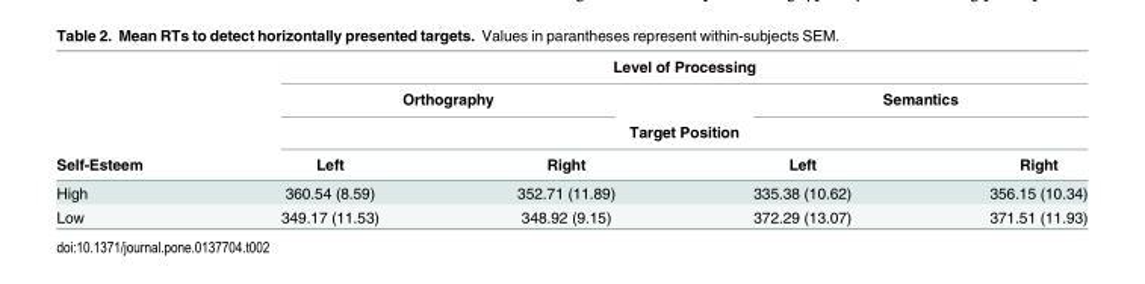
<table><thead><tr><td rowspan="4">Self-Esteem</td><td colspan="4">Level of Processing</td></tr><tr><td colspan="2">Orthography</td><td colspan="2">Semantics</td></tr><tr><td colspan="4">Target Position</td></tr><tr><td>Left</td><td>Right</td><td>Left</td><td>Right</td></tr></thead><tbody><tr><td>High</td><td>360.54 (8.59)</td><td>352.71 (11.89)</td><td>335.38 (10.62)</td><td>356.15 (10.34)</td></tr><tr><td>Low</td><td>349.17 (11.53)</td><td>348.92 (9.15)</td><td>372.29 (13.07)</td><td>371.51 (11.93)</td></tr></tbody></table>